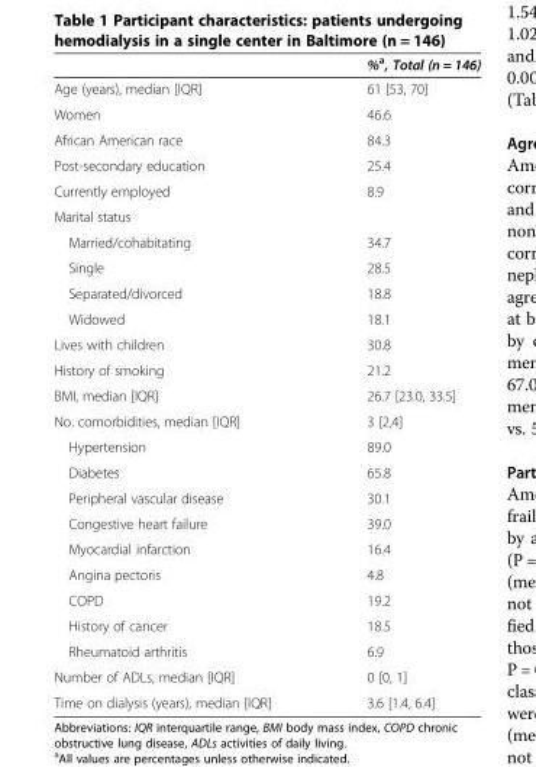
<table><thead><tr><td></td><td>%<sup>a</sup>, Total (n = 146)</td></tr></thead><tbody><tr><td>Age (years), median [IQR]</td><td>61 [53, 70]</td></tr><tr><td>Women</td><td>46.6</td></tr><tr><td>African American race</td><td>84.3</td></tr><tr><td>Post-secondary education</td><td>25.4</td></tr><tr><td>Currently employed</td><td>8.9</td></tr><tr><td colspan="2">Marital status</td></tr><tr><td>Married/cohabitating</td><td>34.7</td></tr><tr><td>Single</td><td>28.5</td></tr><tr><td>Separated/divorced</td><td>18.8</td></tr><tr><td>Widowed</td><td>18.1</td></tr><tr><td>Lives with children</td><td>30.8</td></tr><tr><td>History of smoking</td><td>21.2</td></tr><tr><td>BMI, median [IQR]</td><td>26.7 [23.0, 33.5]</td></tr><tr><td>No. comorbidities, median [IQR]</td><td>3 [2,4]</td></tr><tr><td>Hypertension</td><td>89.0</td></tr><tr><td>Diabetes</td><td>65.8</td></tr><tr><td>Peripheral vascular disease</td><td>30.1</td></tr><tr><td>Congestive heart failure</td><td>39.0</td></tr><tr><td>Myocardial infarction</td><td>16.4</td></tr><tr><td>Angina pectoris</td><td>4.8</td></tr><tr><td>COPD</td><td>19.2</td></tr><tr><td>History of cancer</td><td>18.5</td></tr><tr><td>Rheumatoid arthritis</td><td>6.9</td></tr><tr><td>Number of ADLs, median [IQR]</td><td>0 [0, 1]</td></tr><tr><td>Time on dialysis (years), median [IQR]</td><td>3.6 [1.4, 6.4]</td></tr></tbody></table>